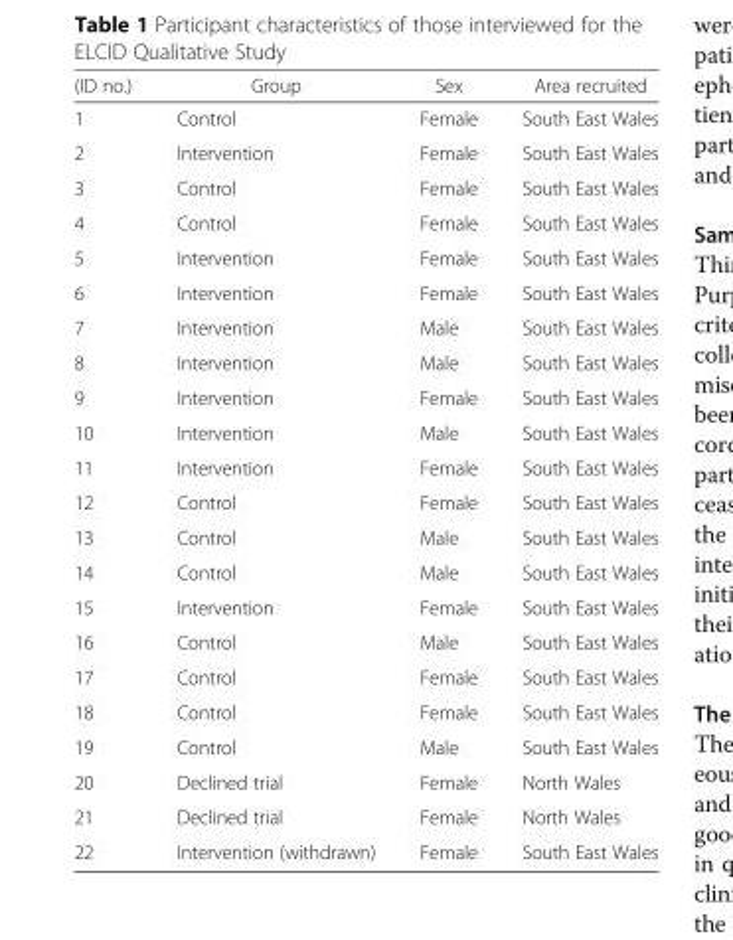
<table><thead><tr><td>(ID no.)</td><td>Group</td><td>Sex</td><td>Area recruited</td></tr></thead><tbody><tr><td>1</td><td>Control</td><td>Female</td><td>South East Wales</td></tr><tr><td>2</td><td>Intervention</td><td>Female</td><td>South East Wales</td></tr><tr><td>3</td><td>Control</td><td>Female</td><td>South East Wales</td></tr><tr><td>4</td><td>Control</td><td>Female</td><td>South East Wales</td></tr><tr><td>5</td><td>Intervention</td><td>Female</td><td>South East Wales</td></tr><tr><td>6</td><td>Intervention</td><td>Female</td><td>South East Wales</td></tr><tr><td>7</td><td>Intervention</td><td>Male</td><td>South East Wales</td></tr><tr><td>8</td><td>Intervention</td><td>Male</td><td>South East Wales</td></tr><tr><td>9</td><td>Intervention</td><td>Female</td><td>South East Wales</td></tr><tr><td>10</td><td>Intervention</td><td>Male</td><td>South East Wales</td></tr><tr><td>11</td><td>Intervention</td><td>Female</td><td>South East Wales</td></tr><tr><td>12</td><td>Control</td><td>Female</td><td>South East Wales</td></tr><tr><td>13</td><td>Control</td><td>Male</td><td>South East Wales</td></tr><tr><td>14</td><td>Control</td><td>Male</td><td>South East Wales</td></tr><tr><td>15</td><td>Intervention</td><td>Female</td><td>South East Wales</td></tr><tr><td>16</td><td>Control</td><td>Male</td><td>South East Wales</td></tr><tr><td>17</td><td>Control</td><td>Female</td><td>South East Wales</td></tr><tr><td>18</td><td>Control</td><td>Female</td><td>South East Wales</td></tr><tr><td>19</td><td>Control</td><td>Male</td><td>South East Wales</td></tr><tr><td>20</td><td>Declined trial</td><td>Female</td><td>North Wales</td></tr><tr><td>21</td><td>Declined trial</td><td>Female</td><td>North Wales</td></tr><tr><td>22</td><td>Intervention (withdrawn)</td><td>Female</td><td>South East Wales</td></tr></tbody></table>